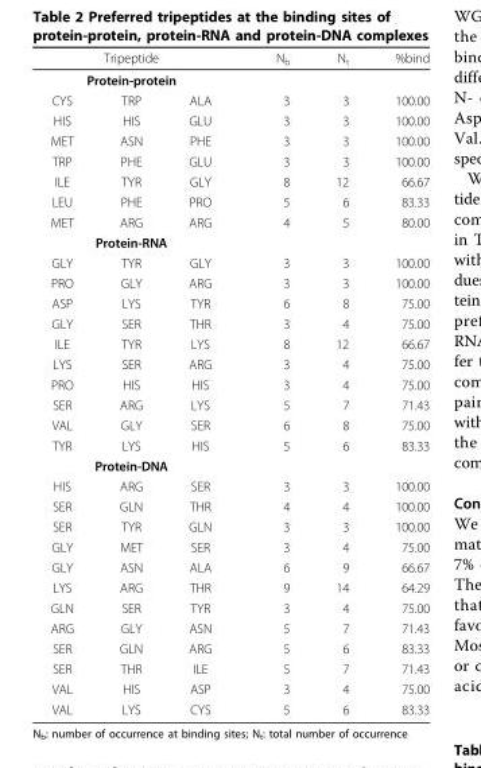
<table><thead><tr><td rowspan="2" colspan="3">Tripeptide Protein-protein</td><td rowspan="3">N<sub>b</sub> 3</td><td rowspan="3">N<sub>t</sub> 3</td><td rowspan="3">%bind 100.00</td></tr><tr></tr><tr><td>CYS</td><td>TRP</td><td>ALA</td></tr></thead><tbody><tr><td>HIS</td><td>HIS</td><td>GLU</td><td>3</td><td>3</td><td>100.00</td></tr><tr><td>MET</td><td>ASN</td><td>PHE</td><td>3</td><td>3</td><td>100.00</td></tr><tr><td>TRP</td><td>PHE</td><td>GLU</td><td>3</td><td>3</td><td>100.00</td></tr><tr><td>ILE</td><td>TYR</td><td>GLY</td><td>8</td><td>12</td><td>66.67</td></tr><tr><td>LEU</td><td>PHE</td><td>PRO</td><td>5</td><td>6</td><td>83.33</td></tr><tr><td>MET</td><td>ARG</td><td>ARG</td><td>4</td><td>5</td><td>80.00</td></tr><tr><td colspan="6">Protein-RNA</td></tr><tr><td>GLY</td><td>TYR</td><td>GLY</td><td>3</td><td>3</td><td>100.00</td></tr><tr><td>PRO</td><td>GLY</td><td>ARG</td><td>3</td><td>3</td><td>100.00</td></tr><tr><td>ASP</td><td>LYS</td><td>TYR</td><td>6</td><td>8</td><td>75.00</td></tr><tr><td>GLY</td><td>SER</td><td>THR</td><td>3</td><td>4</td><td>75.00</td></tr><tr><td>ILE</td><td>TYR</td><td>LYS</td><td>8</td><td>12</td><td>66.67</td></tr><tr><td>LYS</td><td>SER</td><td>ARG</td><td>3</td><td>4</td><td>75.00</td></tr><tr><td>PRO</td><td>HIS</td><td>HIS</td><td>3</td><td>4</td><td>75.00</td></tr><tr><td>SER</td><td>ARG</td><td>LYS</td><td>5</td><td>7</td><td>71.43</td></tr><tr><td>VAL</td><td>GLY</td><td>SER</td><td>6</td><td>8</td><td>75.00</td></tr><tr><td>TYR</td><td>LYS</td><td>HIS</td><td>5</td><td>6</td><td>83.33</td></tr><tr><td colspan="6">Protein-DNA</td></tr><tr><td>HIS</td><td>ARG</td><td>SER</td><td>3</td><td>3</td><td>100.00</td></tr><tr><td>SER</td><td>GLN</td><td>THR</td><td>4</td><td>4</td><td>100.00</td></tr><tr><td>SER</td><td>TYR</td><td>GLN</td><td>3</td><td>3</td><td>100.00</td></tr><tr><td>GLY</td><td>MET</td><td>SER</td><td>3</td><td>4</td><td>75.00</td></tr><tr><td>GLY</td><td>ASN</td><td>ALA</td><td>6</td><td>9</td><td>66.67</td></tr><tr><td>LYS</td><td>ARG</td><td>THR</td><td>9</td><td>14</td><td>64.29</td></tr><tr><td>GLN</td><td>SER</td><td>TYR</td><td>3</td><td>4</td><td>75.00</td></tr><tr><td>ARG</td><td>GLY</td><td>ASN</td><td>5</td><td>7</td><td>71.43</td></tr><tr><td>SER</td><td>GLN</td><td>ARG</td><td>5</td><td>6</td><td>83.33</td></tr><tr><td>SER</td><td>THR</td><td>ILE</td><td>5</td><td>7</td><td>71.43</td></tr><tr><td>VAL</td><td>HIS</td><td>ASP</td><td>3</td><td>4</td><td>75.00</td></tr><tr><td>VAL</td><td>LYS</td><td>CYS</td><td>5</td><td>6</td><td>83.33</td></tr></tbody></table>